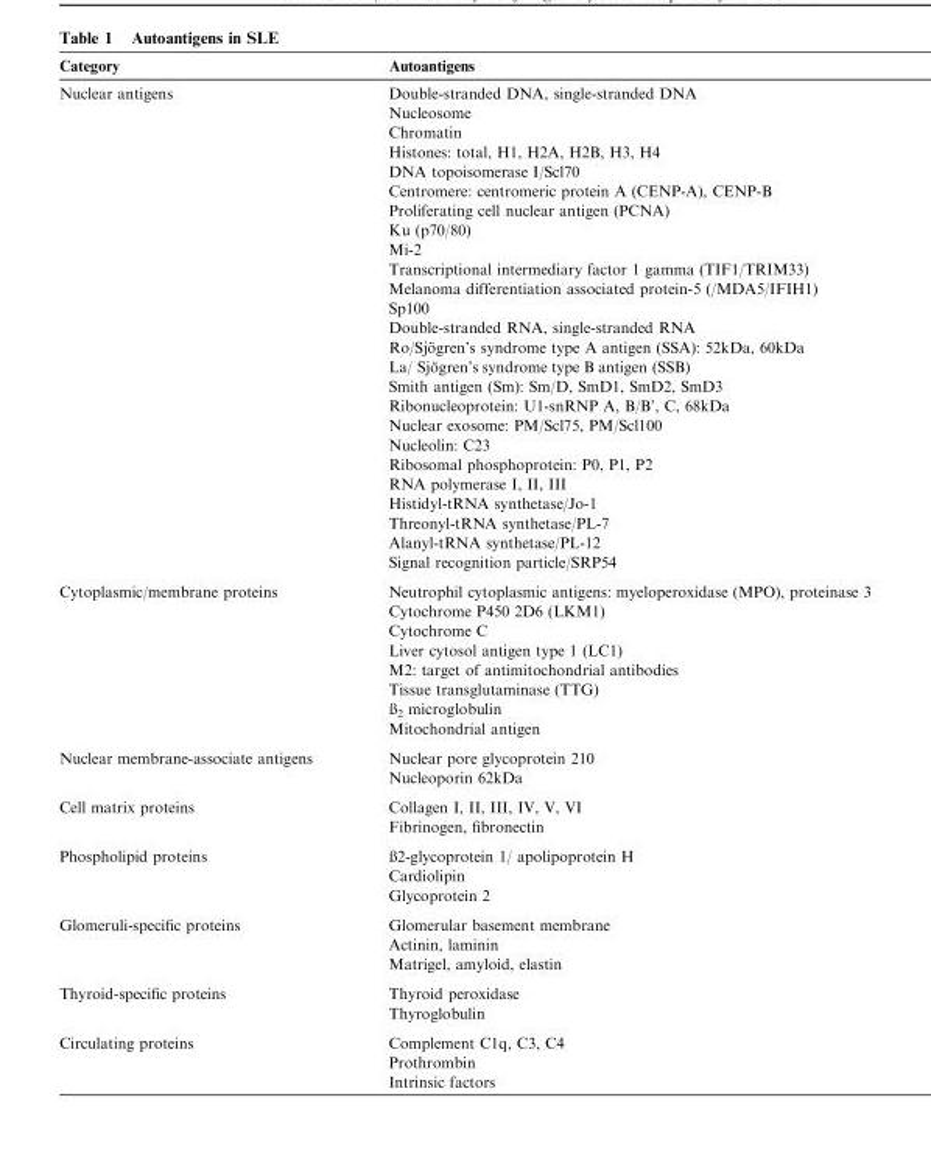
<table><thead><tr><td>Category</td><td>Autoantigens</td></tr></thead><tbody><tr><td>Nuclear antigens</td><td>Double-stranded DNA, single-stranded DNA Nucleosome Chromatin Histones: total, H1, H2A, H2B, H3, H4 DNA topoisomerase I/Scl70 Centromere: centromeric protein A (CENP-A), CENP-B Proliferating cell nuclear antigen (PCNA) Ku (p70/80) Mi-2 Transcriptional intermediary factor 1 gamma (TIF1/TRIM33) Melanoma differentiation associated protein-5 (/MDA5/IFIH1) Sp100 Double-stranded RNA, single-stranded RNA Ro/Sjo¨ gren’s syndrome type A antigen (SSA): 52kDa, 60kDa La/ Sjo¨ gren’s syndrome type B antigen (SSB) Smith antigen (Sm): Sm/D, SmD1, SmD2, SmD3 Ribonucleoprotein: U1-snRNP A, B/B’, C, 68kDa Nuclear exosome: PM/Scl75, PM/Scl100 Nucleolin: C23 Ribosomal phosphoprotein: P0, P1, P2 RNA polymerase I, II, III Histidyl-tRNA synthetase/Jo-1 Threonyl-tRNA synthetase/PL-7 Alanyl-tRNA synthetase/PL-12 Signal recognition particle/SRP54</td></tr><tr><td>Cytoplasmic/membrane proteins</td><td>Neutrophil cytoplasmic antigens: myeloperoxidase (MPO), proteinase 3 Cytochrome P450 2D6 (LKM1) Cytochrome C Liver cytosol antigen type 1 (LC1) M2: target of antimitochondrial antibodies Tissue transglutaminase (TTG) ß<sub>2</sub> microglobulin Mitochondrial antigen</td></tr><tr><td>Nuclear membrane-associate antigens</td><td>Nuclear pore glycoprotein 210 Nucleoporin 62kDa</td></tr><tr><td>Cell matrix proteins</td><td>Collagen I, II, III, IV, V, VI Fibrinogen, fibronectin</td></tr><tr><td>Phospholipid proteins</td><td>ß2-glycoprotein 1/ apolipoprotein H Cardiolipin Glycoprotein 2</td></tr><tr><td>Glomeruli-specific proteins</td><td>Glomerular basement membrane Actinin, laminin Matrigel, amyloid, elastin</td></tr><tr><td>Thyroid-specific proteins</td><td>Thyroid peroxidase Thyroglobulin</td></tr><tr><td>Circulating proteins</td><td>Complement C1q, C3, C4 Prothrombin Intrinsic factors</td></tr></tbody></table>